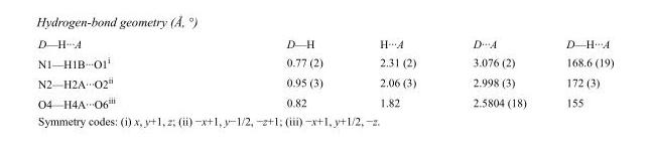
<table><tbody><tr><td>D—H···A</td><td>D—H</td><td>H···A</td><td>D···A</td><td>D—H···A</td></tr><tr><td>N1—H1B···O1<sup>i</sup></td><td>0.77 (2)</td><td>2.31 (2)</td><td>3.076 (2)</td><td>168.6 (19)</td></tr><tr><td>N2—H2A···O2<sup>ii</sup></td><td>0.95 (3)</td><td>2.06 (3)</td><td>2.998 (3)</td><td>172 (3)</td></tr><tr><td>O4—H4A···O6<sup>iii</sup></td><td>0.82</td><td>1.82</td><td>2.5804 (18)</td><td>155</td></tr></tbody></table>